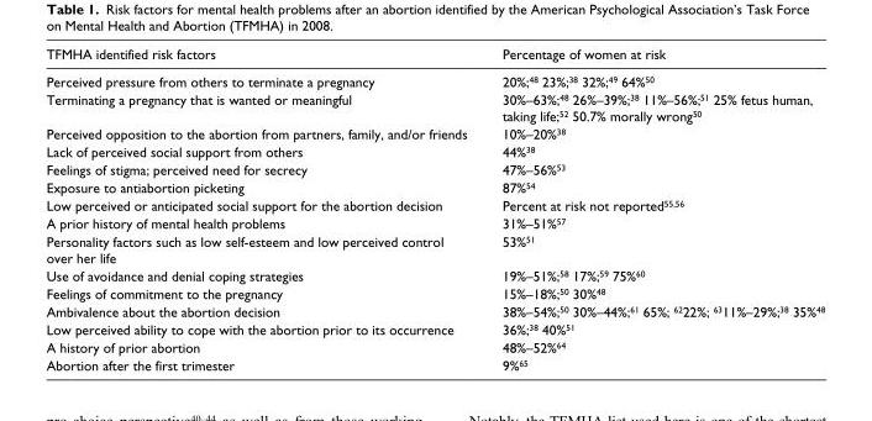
<table><thead><tr><td>TFMHA identified risk factors</td><td>Percentage of women at risk</td></tr></thead><tbody><tr><td>Perceived pressure from others to terminate a pregnancy</td><td>20%;<sup>48</sup> 23%;<sup>38</sup> 32%;<sup>49</sup> 64%<sup>50</sup></td></tr><tr><td>Terminating a pregnancy that is wanted or meaningful</td><td>30%–63%;<sup>48</sup> 26%–39%;<sup>38</sup> 11%–56%;<sup>51</sup> 25% fetus human, taking life;<sup>52</sup> 50.7% morally wrong<sup>50</sup></td></tr><tr><td>Perceived opposition to the abortion from partners, family, and/or friends</td><td>10%–20%<sup>38</sup></td></tr><tr><td>Lack of perceived social support from others</td><td>44%<sup>38</sup></td></tr><tr><td>Feelings of stigma; perceived need for secrecy</td><td>47%–56%<sup>53</sup></td></tr><tr><td>Exposure to antiabortion picketing</td><td>87%<sup>54</sup></td></tr><tr><td>Low perceived or anticipated social support for the abortion decision</td><td>Percent at risk not reported<sup>55,56</sup></td></tr><tr><td>A prior history of mental health problems</td><td>31%–51%<sup>57</sup></td></tr><tr><td>Personality factors such as low self-esteem and low perceived control over her life</td><td>53%<sup>51</sup></td></tr><tr><td>Use of avoidance and denial coping strategies</td><td>19%–51%;<sup>58</sup> 17%;<sup>59</sup> 75%<sup>60</sup></td></tr><tr><td>Feelings of commitment to the pregnancy</td><td>15%–18%;<sup>50</sup> 30%<sup>48</sup></td></tr><tr><td>Ambivalence about the abortion decision</td><td>38%–54%;<sup>50</sup> 30%–44%;<sup>61</sup> 65%; <sup>62</sup>22%; <sup>63</sup>11%–29%;<sup>38</sup> 35%<sup>48</sup></td></tr><tr><td>Low perceived ability to cope with the abortion prior to its occurrence</td><td>36%;<sup>38</sup> 40%<sup>51</sup></td></tr><tr><td>A history of prior abortion</td><td>48%–52%<sup>64</sup></td></tr><tr><td>Abortion after the first trimester</td><td>9%<sup>65</sup></td></tr></tbody></table>